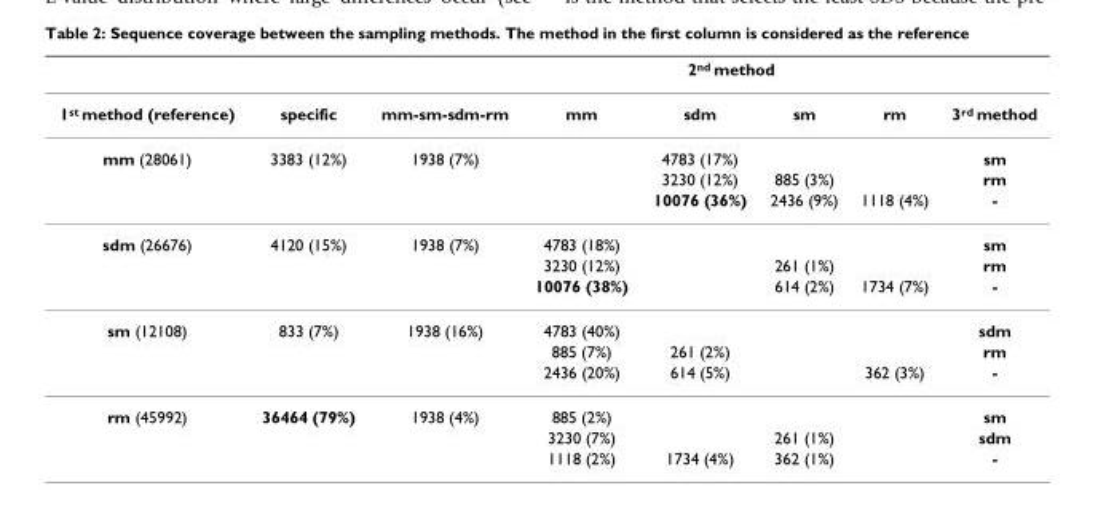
<table><thead><tr><td rowspan="2">1<sup>st</sup> method (reference)</td><td rowspan="2">specific</td><td rowspan="2">mm-sm-sdm-rm</td><td colspan="4">2<sup>nd</sup> method</td><td rowspan="2">3<sup>rd</sup> method</td></tr><tr><td>mm</td><td>sdm</td><td>sm</td><td>rm</td></tr></thead><tbody><tr><td rowspan="3">mm (28061)</td><td>3383 (12%)</td><td>1938 (7%)</td><td></td><td>4783 (17%)</td><td></td><td></td><td>sm</td></tr><tr><td></td><td></td><td></td><td>3230 (12%)</td><td>885 (3%)</td><td></td><td>rm</td></tr><tr><td></td><td></td><td></td><td>10076 (36%)</td><td>2436 (9%)</td><td>1118 (4%)</td><td>-</td></tr><tr><td rowspan="3">sdm (26676)</td><td>4120 (15%)</td><td>1938 (7%)</td><td>4783 (18%)</td><td></td><td></td><td></td><td>sm</td></tr><tr><td></td><td></td><td>3230 (12%)</td><td></td><td>261 (1%)</td><td></td><td>rm</td></tr><tr><td></td><td></td><td>10076 (38%)</td><td></td><td>614 (2%)</td><td>1734 (7%)</td><td>-</td></tr><tr><td rowspan="3">sm (12108)</td><td>833 (7%)</td><td>1938 (16%)</td><td>4783 (40%)</td><td></td><td></td><td></td><td>sdm</td></tr><tr><td></td><td></td><td>885 (7%)</td><td>261 (2%)</td><td></td><td></td><td>rm</td></tr><tr><td></td><td></td><td>2436 (20%)</td><td>614 (5%)</td><td></td><td>362 (3%)</td><td>-</td></tr><tr><td rowspan="3">rm (45992)</td><td>36464 (79%)</td><td>1938 (4%)</td><td>885 (2%)</td><td></td><td></td><td></td><td>sm</td></tr><tr><td></td><td></td><td>3230 (7%)</td><td></td><td>261 (1%)</td><td></td><td>sdm</td></tr><tr><td></td><td></td><td>1118 (2%)</td><td>1734 (4%)</td><td>362 (1%)</td><td></td><td>-</td></tr></tbody></table>